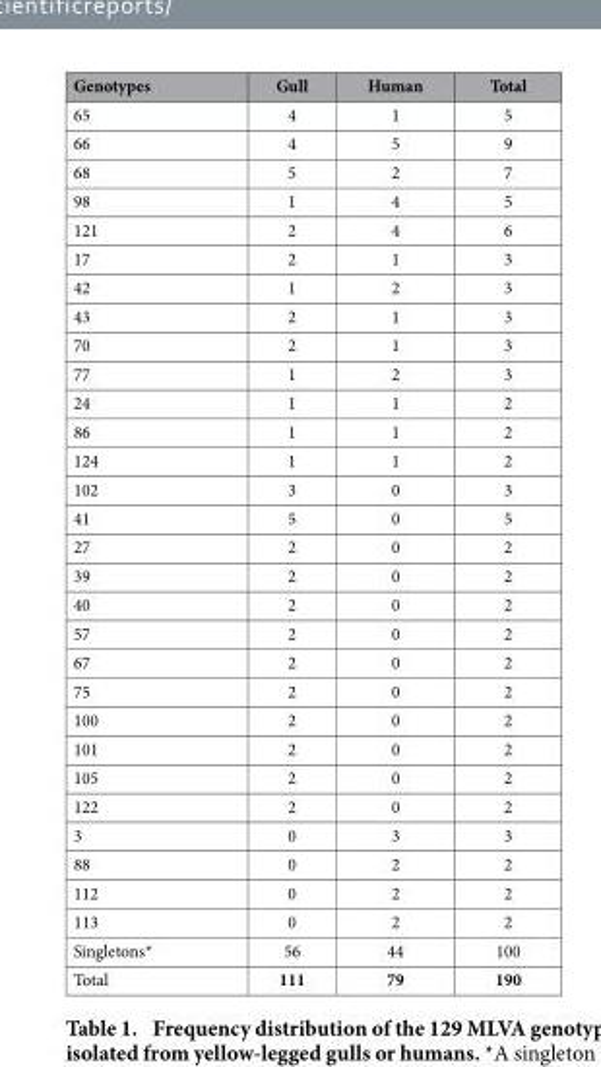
<table><thead><tr><td>Genotypes</td><td>Gull</td><td>Human</td><td>Total</td></tr></thead><tbody><tr><td>65</td><td>4</td><td>1</td><td>5</td></tr><tr><td>66</td><td>4</td><td>5</td><td>9</td></tr><tr><td>68</td><td>5</td><td>2</td><td>7</td></tr><tr><td>98</td><td>1</td><td>4</td><td>5</td></tr><tr><td>121</td><td>2</td><td>4</td><td>6</td></tr><tr><td>17</td><td>2</td><td>1</td><td>3</td></tr><tr><td>42</td><td>1</td><td>2</td><td>3</td></tr><tr><td>43</td><td>2</td><td>1</td><td>3</td></tr><tr><td>70</td><td>2</td><td>1</td><td>3</td></tr><tr><td>77</td><td>1</td><td>2</td><td>3</td></tr><tr><td>24</td><td>1</td><td>1</td><td>2</td></tr><tr><td>86</td><td>1</td><td>1</td><td>2</td></tr><tr><td>124</td><td>1</td><td>1</td><td>2</td></tr><tr><td>102</td><td>3</td><td>0</td><td>3</td></tr><tr><td>41</td><td>5</td><td>0</td><td>5</td></tr><tr><td>27</td><td>2</td><td>0</td><td>2</td></tr><tr><td>39</td><td>2</td><td>0</td><td>2</td></tr><tr><td>40</td><td>2</td><td>0</td><td>2</td></tr><tr><td>57</td><td>2</td><td>0</td><td>2</td></tr><tr><td>67</td><td>2</td><td>0</td><td>2</td></tr><tr><td>75</td><td>2</td><td>0</td><td>2</td></tr><tr><td>100</td><td>2</td><td>0</td><td>2</td></tr><tr><td>101</td><td>2</td><td>0</td><td>2</td></tr><tr><td>105</td><td>2</td><td>0</td><td>2</td></tr><tr><td>122</td><td>2</td><td>0</td><td>2</td></tr><tr><td>3</td><td>0</td><td>3</td><td>3</td></tr><tr><td>88</td><td>0</td><td>2</td><td>2</td></tr><tr><td>112</td><td>0</td><td>2</td><td>2</td></tr><tr><td>113</td><td>0</td><td>2</td><td>2</td></tr><tr><td>Singletons*</td><td>56</td><td>44</td><td>100</td></tr><tr><td>Total</td><td>111</td><td>79</td><td>190</td></tr></tbody></table>